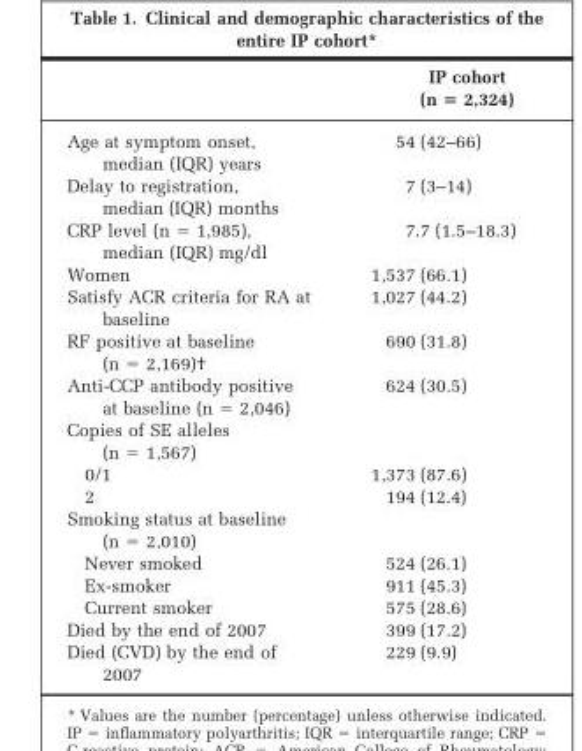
<table><thead><tr><td></td><td>IP cohort (n = 2,324)</td></tr></thead><tbody><tr><td>Age at symptom onset, median (IQR) years</td><td>54 (42–66)</td></tr><tr><td>Delay to registration, median (IQR) months</td><td>7 (3–14)</td></tr><tr><td>CRP level (n = 1,985), median (IQR) mg/dl</td><td>7.7 (1.5–18.3)</td></tr><tr><td>Women</td><td>1,537 (66.1)</td></tr><tr><td>Satisfy ACR criteria for RA at baseline</td><td>1,027 (44.2)</td></tr><tr><td>RF positive at baseline (n = 2,169)†</td><td>690 (31.8)</td></tr><tr><td>Anti-CCP antibody positive at baseline (n = 2,046)</td><td>624 (30.5)</td></tr><tr><td colspan="2">Copies of SE alleles (n = 1,567)</td></tr><tr><td>0/1</td><td>1,373 (87.6)</td></tr><tr><td>2</td><td>194 (12.4)</td></tr><tr><td colspan="2">Smoking status at baseline (n = 2,010)</td></tr><tr><td>Never smoked</td><td>524 (26.1)</td></tr><tr><td>Ex-smoker</td><td>911 (45.3)</td></tr><tr><td>Current smoker</td><td>575 (28.6)</td></tr><tr><td>Died by the end of 2007</td><td>399 (17.2)</td></tr><tr><td>Died (CVD) by the end of 2007</td><td>229 (9.9)</td></tr></tbody></table>